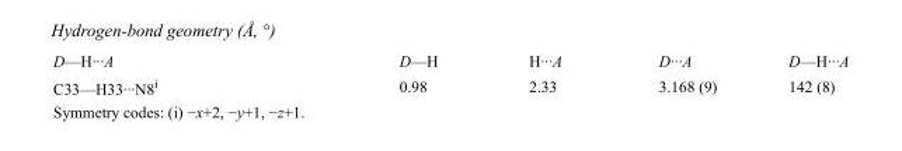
<table><tbody><tr><td>D—H···A</td><td>D—H</td><td>H···A</td><td>D···A</td><td>D—H···A</td></tr><tr><td>C33—H33···N8<sup>i</sup></td><td>0.98</td><td>2.33</td><td>3.168 (9)</td><td>142 (8)</td></tr></tbody></table>